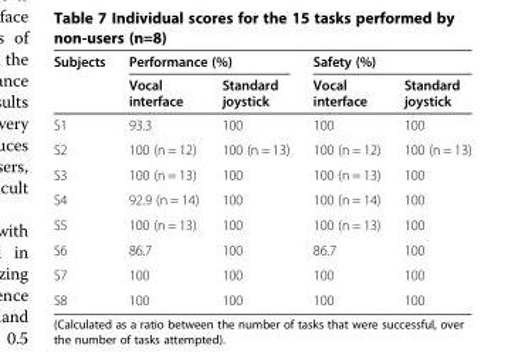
<table><thead><tr><td rowspan="2">Subjects</td><td colspan="2">Performance (%)</td><td colspan="2">Safety (%)</td></tr><tr><td>Vocal interface</td><td>Standard joystick</td><td>Vocal interface</td><td>Standard joystick</td></tr></thead><tbody><tr><td>S1</td><td>93.3</td><td>100</td><td>100</td><td>100</td></tr><tr><td>S2</td><td>100 (n = 12)</td><td>100 (n = 13)</td><td>100 (n = 12)</td><td>100 (n = 13)</td></tr><tr><td>S3</td><td>100 (n = 13)</td><td>100</td><td>100 (n = 13)</td><td>100</td></tr><tr><td>S4</td><td>92.9 (n = 14)</td><td>100</td><td>100 (n = 14)</td><td>100</td></tr><tr><td>S5</td><td>100 (n = 13)</td><td>100</td><td>100 (n = 13)</td><td>100</td></tr><tr><td>S6</td><td>86.7</td><td>100</td><td>86.7</td><td>100</td></tr><tr><td>S7</td><td>100</td><td>100</td><td>100</td><td>100</td></tr><tr><td>S8</td><td>100</td><td>100</td><td>100</td><td>100</td></tr></tbody></table>